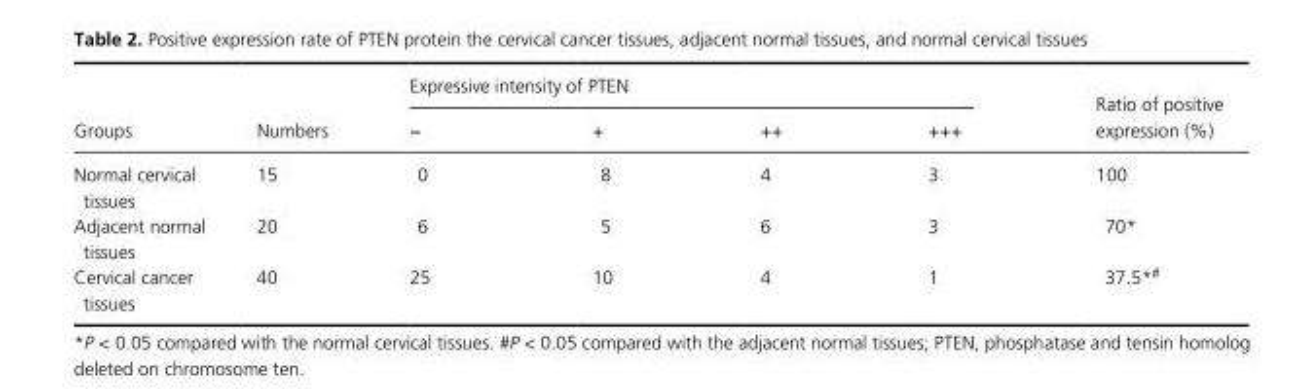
<table><thead><tr><td rowspan="2">Groups</td><td rowspan="2">Numbers</td><td colspan="4">Expressive intensity of PTEN</td><td rowspan="2">Ratio of positive expression (%)</td></tr><tr><td>−</td><td>+</td><td>++</td><td>+++</td></tr></thead><tbody><tr><td>Normal cervical tissues</td><td>15</td><td>0</td><td>8</td><td>4</td><td>3</td><td>100</td></tr><tr><td>Adjacent normal tissues</td><td>20</td><td>6</td><td>5</td><td>6</td><td>3</td><td>70*</td></tr><tr><td>Cervical cancer tissues</td><td>40</td><td>25</td><td>10</td><td>4</td><td>1</td><td>37.5*#</td></tr></tbody></table>